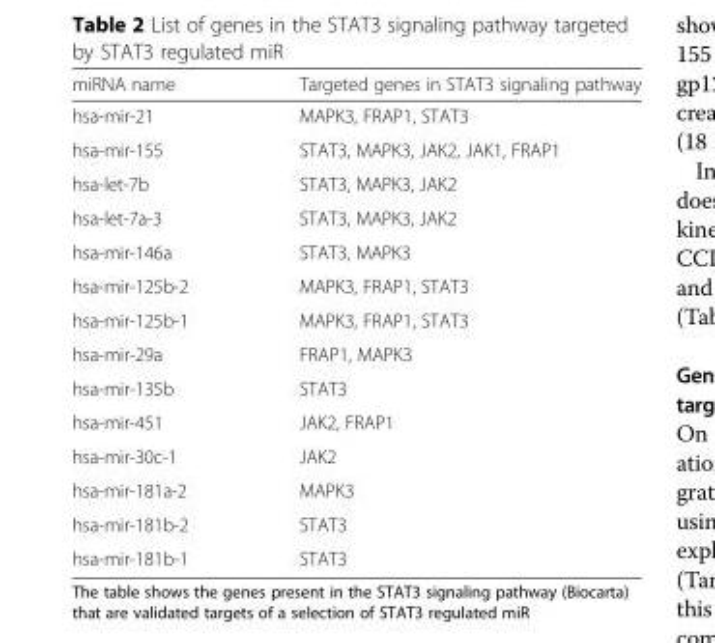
<table><thead><tr><td>miRNA name</td><td>Targeted genes in STAT3 signaling pathway</td></tr></thead><tbody><tr><td>hsa-mir-21</td><td>MAPK3, FRAP1, STAT3</td></tr><tr><td>hsa-mir-155</td><td>STAT3, MAPK3, JAK2, JAK1, FRAP1</td></tr><tr><td>hsa-let-7b</td><td>STAT3, MAPK3, JAK2</td></tr><tr><td>hsa-let-7a-3</td><td>STAT3, MAPK3, JAK2</td></tr><tr><td>hsa-mir-146a</td><td>STAT3, MAPK3</td></tr><tr><td>hsa-mir-125b-2</td><td>MAPK3, FRAP1, STAT3</td></tr><tr><td>hsa-mir-125b-1</td><td>MAPK3, FRAP1, STAT3</td></tr><tr><td>hsa-mir-29a</td><td>FRAP1, MAPK3</td></tr><tr><td>hsa-mir-135b</td><td>STAT3</td></tr><tr><td>hsa-mir-451</td><td>JAK2, FRAP1</td></tr><tr><td>hsa-mir-30c-1</td><td>JAK2</td></tr><tr><td>hsa-mir-181a-2</td><td>MAPK3</td></tr><tr><td>hsa-mir-181b-2</td><td>STAT3</td></tr><tr><td>hsa-mir-181b-1</td><td>STAT3</td></tr></tbody></table>